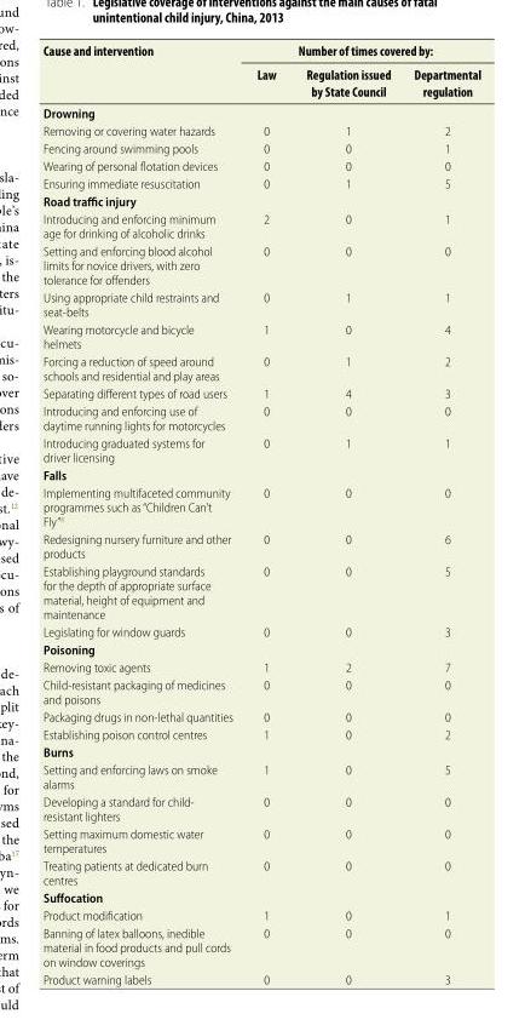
<table><thead><tr><td rowspan="2">Cause and intervention</td><td colspan="3">Number of times covered by:</td></tr><tr><td>Law</td><td>Regulation issued by State Council</td><td>Departmental regulation</td></tr></thead><tbody><tr><td colspan="4">Drowning</td></tr><tr><td>Removing or covering water hazards</td><td>0</td><td>1</td><td>2</td></tr><tr><td>Fencing around swimming pools</td><td>0</td><td>0</td><td>1</td></tr><tr><td>Wearing of personal flotation devices</td><td>0</td><td>0</td><td>0</td></tr><tr><td>Ensuring immediate resuscitation</td><td>0</td><td>1</td><td>5</td></tr><tr><td colspan="4">Road traffic injury</td></tr><tr><td>Introducing and enforcing minimum age for drinking of alcoholic drinks</td><td>2</td><td>0</td><td>1</td></tr><tr><td>Setting and enforcing blood alcohol limits for novice drivers, with zero tolerance for offenders</td><td>0</td><td>0</td><td>0</td></tr><tr><td>Using appropriate child restraints and seat-belts</td><td>0</td><td>1</td><td>1</td></tr><tr><td>Wearing motorcycle and bicycle helmets</td><td>1</td><td>0</td><td>4</td></tr><tr><td>Forcing a reduction of speed around schools and residential and play areas</td><td>0</td><td>1</td><td>2</td></tr><tr><td>Separating different types of road users</td><td>1</td><td>4</td><td>3</td></tr><tr><td>Introducing and enforcing use of daytime running lights for motorcycles</td><td>0</td><td>0</td><td>0</td></tr><tr><td>Introducing graduated systems for driver licensing</td><td>0</td><td>1</td><td>1</td></tr><tr><td colspan="4">Falls</td></tr><tr><td>Implementing multifaceted community programmes such as “Children Can’t Fly”<sup>8</sup></td><td>0</td><td>0</td><td>0</td></tr><tr><td>Redesigning nursery furniture and other products</td><td>0</td><td>0</td><td>6</td></tr><tr><td>Establishing playground standards for the depth of appropriate surface material, height of equipment and maintenance</td><td>0</td><td>0</td><td>5</td></tr><tr><td>Legislating for window guards</td><td>0</td><td>0</td><td>3</td></tr><tr><td colspan="4">Poisoning</td></tr><tr><td>Removing toxic agents</td><td>1</td><td>2</td><td>7</td></tr><tr><td>Child-resistant packaging of medicines and poisons</td><td>0</td><td>0</td><td>0</td></tr><tr><td>Packaging drugs in non-lethal quantities</td><td>0</td><td>0</td><td>0</td></tr><tr><td>Establishing poison control centres</td><td>1</td><td>0</td><td>2</td></tr><tr><td colspan="4">Burns</td></tr><tr><td>Setting and enforcing laws on smoke alarms</td><td>1</td><td>0</td><td>5</td></tr><tr><td>Developing a standard for child- resistant lighters</td><td>0</td><td>0</td><td>0</td></tr><tr><td>Setting maximum domestic water temperatures</td><td>0</td><td>0</td><td>0</td></tr><tr><td>Treating patients at dedicated burn centres</td><td>0</td><td>0</td><td>0</td></tr><tr><td colspan="4">Suffocation</td></tr><tr><td>Product modification</td><td>1</td><td>0</td><td>1</td></tr><tr><td>Banning of latex balloons, inedible material in food products and pull cords on window coverings</td><td>0</td><td>0</td><td>0</td></tr><tr><td>Product warning labels</td><td>0</td><td>0</td><td>3</td></tr></tbody></table>